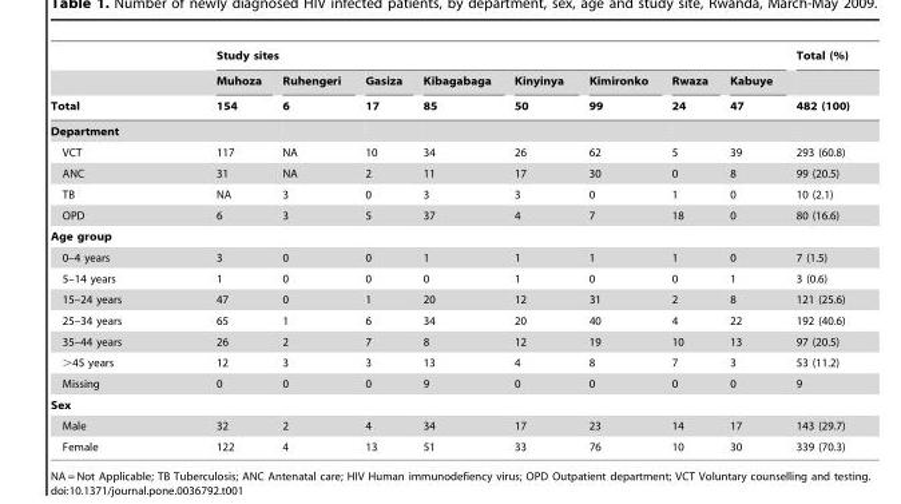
<table><thead><tr><td rowspan="3">Total</td><td colspan="8">Study sites</td><td rowspan="3">Total (%) 482 (100)</td></tr><tr><td rowspan="2">Muhoza 154</td><td rowspan="2">Ruhengeri 6</td><td rowspan="2">Gasiza 17</td><td rowspan="2">Kibagabaga 85</td><td rowspan="2">Kinyinya 50</td><td rowspan="2">Kimironko 99</td><td rowspan="2">Rwaza 24</td><td rowspan="2">Kabuye 47</td></tr><tr></tr></thead><tbody><tr><td colspan="10">Department</td></tr><tr><td>VCT</td><td>117</td><td>NA</td><td>10</td><td>34</td><td>26</td><td>62</td><td>5</td><td>39</td><td>293 (60.8)</td></tr><tr><td>ANC</td><td>31</td><td>NA</td><td>2</td><td>11</td><td>17</td><td>30</td><td>0</td><td>8</td><td>99 (20.5)</td></tr><tr><td>TB</td><td>NA</td><td>3</td><td>0</td><td>3</td><td>3</td><td>0</td><td>1</td><td>0</td><td>10 (2.1)</td></tr><tr><td>OPD</td><td>6</td><td>3</td><td>5</td><td>37</td><td>4</td><td>7</td><td>18</td><td>0</td><td>80 (16.6)</td></tr><tr><td colspan="10">Age group</td></tr><tr><td>0–4 years</td><td>3</td><td>0</td><td>0</td><td>1</td><td>1</td><td>1</td><td>1</td><td>0</td><td>7 (1.5)</td></tr><tr><td>5–14 years</td><td>1</td><td>0</td><td>0</td><td>0</td><td>1</td><td>0</td><td>0</td><td>1</td><td>3 (0.6)</td></tr><tr><td>15–24 years</td><td>47</td><td>0</td><td>1</td><td>20</td><td>12</td><td>31</td><td>2</td><td>8</td><td>121 (25.6)</td></tr><tr><td>25–34 years</td><td>65</td><td>1</td><td>6</td><td>34</td><td>20</td><td>40</td><td>4</td><td>22</td><td>192 (40.6)</td></tr><tr><td>35–44 years</td><td>26</td><td>2</td><td>7</td><td>8</td><td>12</td><td>19</td><td>10</td><td>13</td><td>97 (20.5)</td></tr><tr><td>&gt;45 years</td><td>12</td><td>3</td><td>3</td><td>13</td><td>4</td><td>8</td><td>7</td><td>3</td><td>53 (11.2)</td></tr><tr><td>Missing</td><td>0</td><td>0</td><td>0</td><td>9</td><td>0</td><td>0</td><td>0</td><td>0</td><td>9</td></tr><tr><td colspan="10">Sex</td></tr><tr><td>Male</td><td>32</td><td>2</td><td>4</td><td>34</td><td>17</td><td>23</td><td>14</td><td>17</td><td>143 (29.7)</td></tr><tr><td>Female</td><td>122</td><td>4</td><td>13</td><td>51</td><td>33</td><td>76</td><td>10</td><td>30</td><td>339 (70.3)</td></tr></tbody></table>